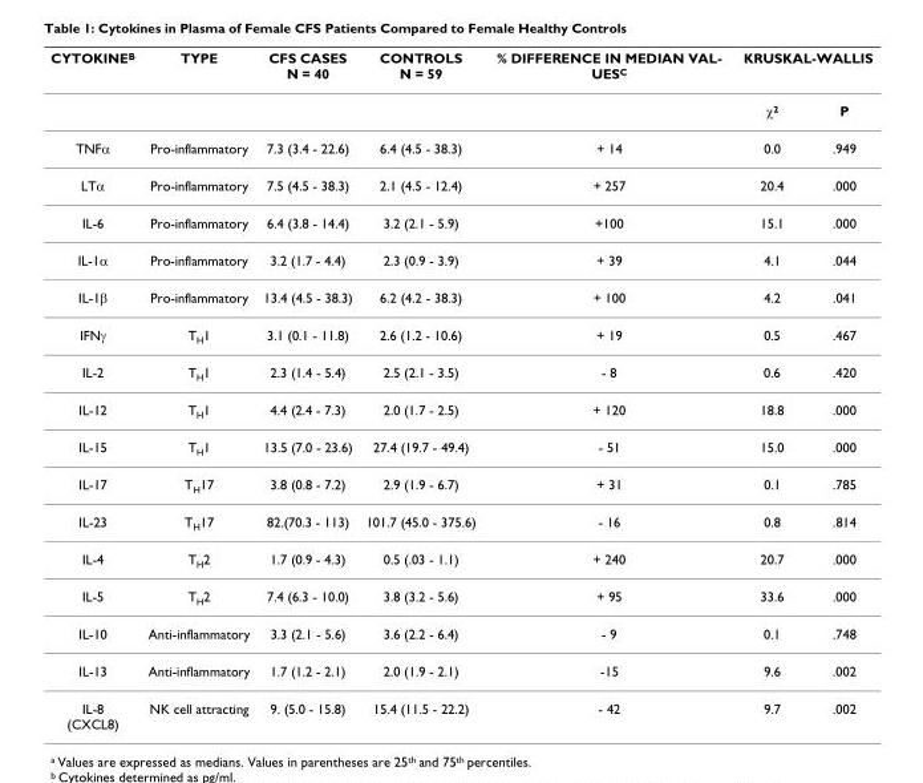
<table><thead><tr><td rowspan="2">CYTOKINEB</td><td rowspan="2">TYPE</td><td rowspan="2">CFS CASES N = 40</td><td rowspan="2">CONTROLS N = 59</td><td rowspan="2">% DIFFERENCE IN MEDIAN VAL- UESC</td><td colspan="2">KRUSKAL-WALLIS</td></tr><tr><td>χ2</td><td>P</td></tr></thead><tbody><tr><td>TNFα</td><td>Pro-inflammatory</td><td>7.3 (3.4 - 22.6)</td><td>6.4 (4.5 - 38.3)</td><td>+ 14</td><td>0.0</td><td>.949</td></tr><tr><td>LTα</td><td>Pro-inflammatory</td><td>7.5 (4.5 - 38.3)</td><td>2.1 (4.5 - 12.4)</td><td>+ 257</td><td>20.4</td><td>.000</td></tr><tr><td>IL-6</td><td>Pro-inflammatory</td><td>6.4 (3.8 - 14.4)</td><td>3.2 (2.1 - 5.9)</td><td>+100</td><td>15.1</td><td>.000</td></tr><tr><td>IL-1α</td><td>Pro-inflammatory</td><td>3.2 (1.7 - 4.4)</td><td>2.3 (0.9 - 3.9)</td><td>+ 39</td><td>4.1</td><td>.044</td></tr><tr><td>IL-1β</td><td>Pro-inflammatory</td><td>13.4 (4.5 - 38.3)</td><td>6.2 (4.2 - 38.3)</td><td>+ 100</td><td>4.2</td><td>.041</td></tr><tr><td>IFNγ</td><td>TH1</td><td>3.1 (0.1 - 11.8)</td><td>2.6 (1.2 - 10.6)</td><td>+ 19</td><td>0.5</td><td>.467</td></tr><tr><td>IL-2</td><td>TH1</td><td>2.3 (1.4 - 5.4)</td><td>2.5 (2.1 - 3.5)</td><td>- 8</td><td>0.6</td><td>.420</td></tr><tr><td>IL-12</td><td>TH1</td><td>4.4 (2.4 - 7.3)</td><td>2.0 (1.7 - 2.5)</td><td>+ 120</td><td>18.8</td><td>.000</td></tr><tr><td>IL-15</td><td>TH1</td><td>13.5 (7.0 - 23.6)</td><td>27.4 (19.7 - 49.4)</td><td>- 51</td><td>15.0</td><td>.000</td></tr><tr><td>IL-17</td><td>TH17</td><td>3.8 (0.8 - 7.2)</td><td>2.9 (1.9 - 6.7)</td><td>+ 31</td><td>0.1</td><td>.785</td></tr><tr><td>IL-23</td><td>TH17</td><td>82.(70.3 - 113)</td><td>101.7 (45.0 - 375.6)</td><td>- 16</td><td>0.8</td><td>.814</td></tr><tr><td>IL-4</td><td>TH2</td><td>1.7 (0.9 - 4.3)</td><td>0.5 (.03 - 1.1)</td><td>+ 240</td><td>20.7</td><td>.000</td></tr><tr><td>IL-5</td><td>TH2</td><td>7.4 (6.3 - 10.0)</td><td>3.8 (3.2 - 5.6)</td><td>+ 95</td><td>33.6</td><td>.000</td></tr><tr><td>IL-10</td><td>Anti-inflammatory</td><td>3.3 (2.1 - 5.6)</td><td>3.6 (2.2 - 6.4)</td><td>- 9</td><td>0.1</td><td>.748</td></tr><tr><td>IL-13</td><td>Anti-inflammatory</td><td>1.7 (1.2 - 2.1)</td><td>2.0 (1.9 - 2.1)</td><td>-15</td><td>9.6</td><td>.002</td></tr><tr><td>IL-8 (CXCL8)</td><td>NK cell attracting</td><td>9. (5.0 - 15.8)</td><td>15.4 (11.5 - 22.2)</td><td>- 42</td><td>9.7</td><td>.002</td></tr></tbody></table>